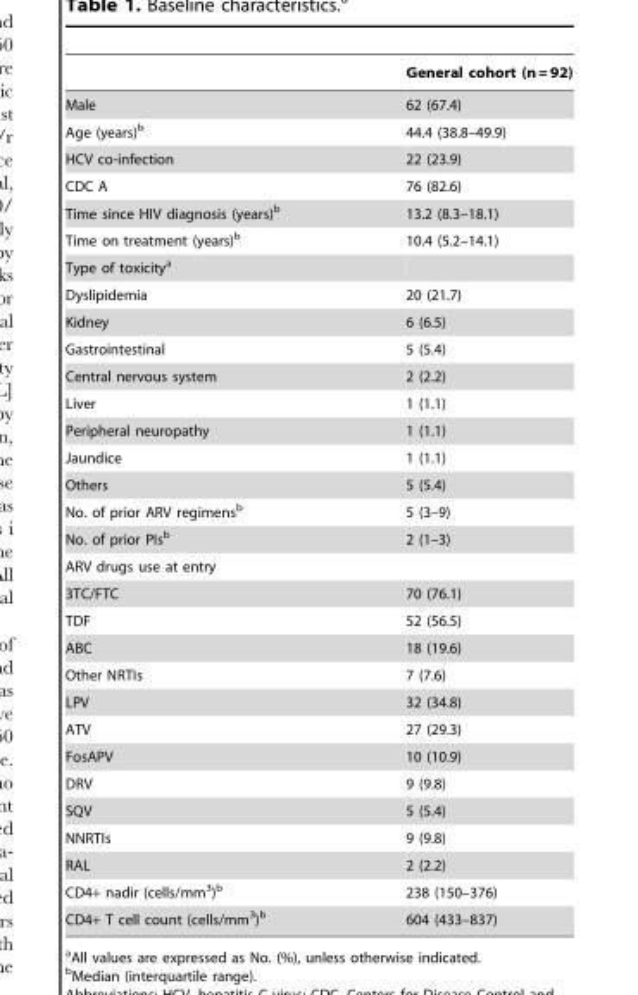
<table><thead><tr><td></td><td>General cohort (n = 92)</td></tr></thead><tbody><tr><td>Male</td><td>62 (67.4)</td></tr><tr><td>Age (years)<sup>b</sup></td><td>44.4 (38.8–49.9)</td></tr><tr><td>HCV co-infection</td><td>22 (23.9)</td></tr><tr><td>CDC A</td><td>76 (82.6)</td></tr><tr><td>Time since HIV diagnosis (years)<sup>b</sup></td><td>13.2 (8.3–18.1)</td></tr><tr><td>Time on treatment (years)<sup>b</sup></td><td>10.4 (5.2–14.1)</td></tr><tr><td colspan="2">Type of toxicity<sup>a</sup></td></tr><tr><td>Dyslipidemia</td><td>20 (21.7)</td></tr><tr><td>Kidney</td><td>6 (6.5)</td></tr><tr><td>Gastrointestinal</td><td>5 (5.4)</td></tr><tr><td>Central nervous system</td><td>2 (2.2)</td></tr><tr><td>Liver</td><td>1 (1.1)</td></tr><tr><td>Peripheral neuropathy</td><td>1 (1.1)</td></tr><tr><td>Jaundice</td><td>1 (1.1)</td></tr><tr><td>Others</td><td>5 (5.4)</td></tr><tr><td>No. of prior ARV regimens<sup>b</sup></td><td>5 (3–9)</td></tr><tr><td>No. of prior PIs<sup>b</sup></td><td>2 (1–3)</td></tr><tr><td colspan="2">ARV drugs use at entry</td></tr><tr><td>3TC/FTC</td><td>70 (76.1)</td></tr><tr><td>TDF</td><td>52 (56.5)</td></tr><tr><td>ABC</td><td>18 (19.6)</td></tr><tr><td>Other NRTIs</td><td>7 (7.6)</td></tr><tr><td>LPV</td><td>32 (34.8)</td></tr><tr><td>ATV</td><td>27 (29.3)</td></tr><tr><td>FosAPV</td><td>10 (10.9)</td></tr><tr><td>DRV</td><td>9 (9.8)</td></tr><tr><td>SQV</td><td>5 (5.4)</td></tr><tr><td>NNRTIs</td><td>9 (9.8)</td></tr><tr><td>RAL</td><td>2 (2.2)</td></tr><tr><td>CD4+ nadir (cells/mm<sup>3</sup>)<sup>b</sup></td><td>238 (150–376)</td></tr><tr><td>CD4+ T cell count (cells/mm<sup>3</sup>)<sup>b</sup></td><td>604 (433–837)</td></tr></tbody></table>